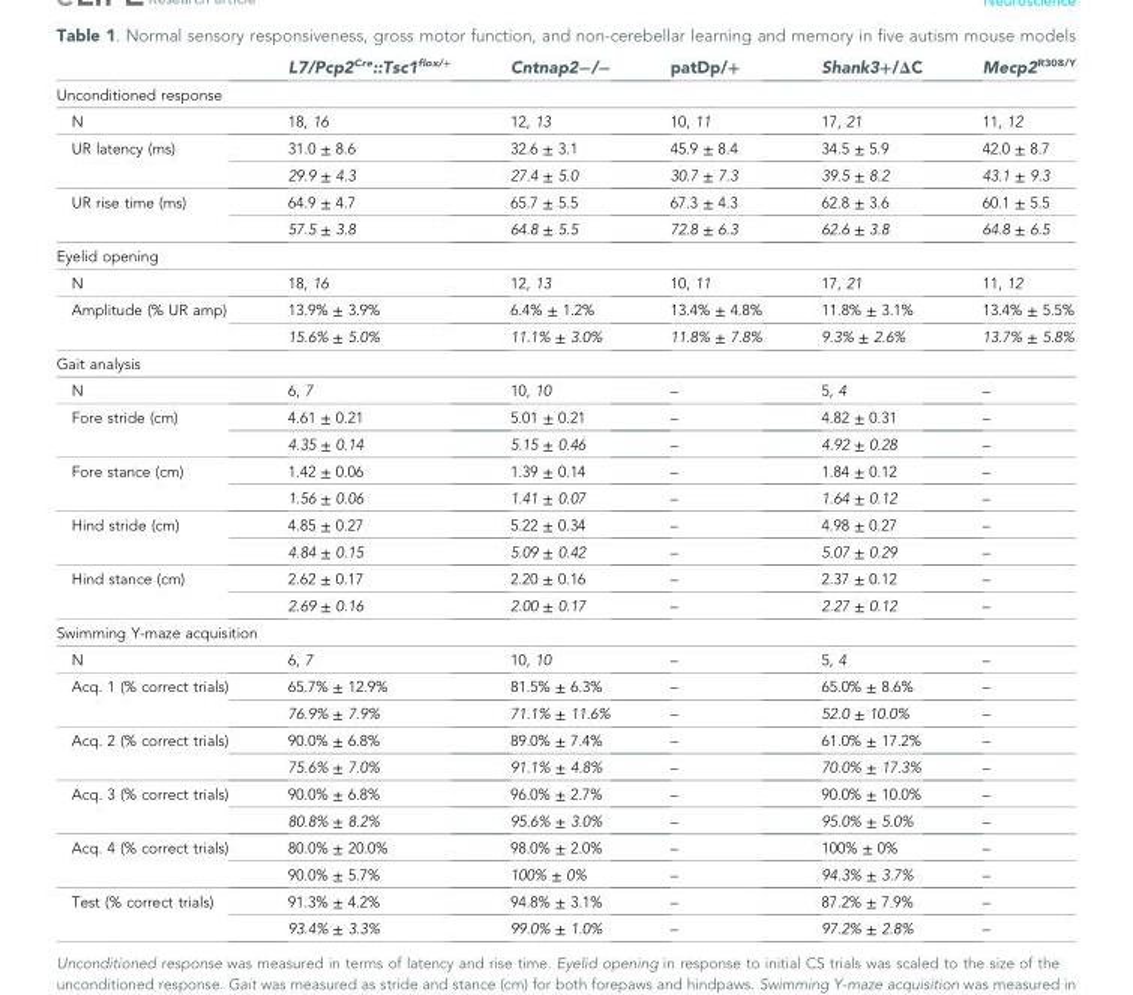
<table><thead><tr><td></td><td>L7/Pcp2<sup>Cre</sup>::Tsc1<sup>flox/+</sup></td><td>Cntnap2−/−</td><td>patDp/+</td><td>Shank3+/ΔC</td><td>Mecp2<sup>R308/Y</sup></td></tr></thead><tbody><tr><td colspan="6">Unconditioned response</td></tr><tr><td>N</td><td>18, 16</td><td>12, 13</td><td>10, 11</td><td>17, 21</td><td>11, 12</td></tr><tr><td rowspan="2">UR latency (ms)</td><td>31.0 ± 8.6</td><td>32.6 ± 3.1</td><td>45.9 ± 8.4</td><td>34.5 ± 5.9</td><td>42.0 ± 8.7</td></tr><tr><td>29.9 ± 4.3</td><td>27.4 ± 5.0</td><td>30.7 ± 7.3</td><td>39.5 ± 8.2</td><td>43.1 ± 9.3</td></tr><tr><td rowspan="2">UR rise time (ms)</td><td>64.9 ± 4.7</td><td>65.7 ± 5.5</td><td>67.3 ± 4.3</td><td>62.8 ± 3.6</td><td>60.1 ± 5.5</td></tr><tr><td>57.5 ± 3.8</td><td>64.8 ± 5.5</td><td>72.8 ± 6.3</td><td>62.6 ± 3.8</td><td>64.8 ± 6.5</td></tr><tr><td colspan="6">Eyelid opening</td></tr><tr><td>N</td><td>18, 16</td><td>12, 13</td><td>10, 11</td><td>17, 21</td><td>11, 12</td></tr><tr><td rowspan="2">Amplitude (% UR amp)</td><td>13.9% ± 3.9%</td><td>6.4% ± 1.2%</td><td>13.4% ± 4.8%</td><td>11.8% ± 3.1%</td><td>13.4% ± 5.5%</td></tr><tr><td>15.6% ± 5.0%</td><td>11.1% ± 3.0%</td><td>11.8% ± 7.8%</td><td>9.3% ± 2.6%</td><td>13.7% ± 5.8%</td></tr><tr><td colspan="6">Gait analysis</td></tr><tr><td>N</td><td>6, 7</td><td>10, 10</td><td>–</td><td>5, 4</td><td>–</td></tr><tr><td rowspan="2">Fore stride (cm)</td><td>4.61 ± 0.21</td><td>5.01 ± 0.21</td><td>–</td><td>4.82 ± 0.31</td><td>–</td></tr><tr><td>4.35 ± 0.14</td><td>5.15 ± 0.46</td><td>–</td><td>4.92 ± 0.28</td><td>–</td></tr><tr><td rowspan="2">Fore stance (cm)</td><td>1.42 ± 0.06</td><td>1.39 ± 0.14</td><td>–</td><td>1.84 ± 0.12</td><td>–</td></tr><tr><td>1.56 ± 0.06</td><td>1.41 ± 0.07</td><td>–</td><td>1.64 ± 0.12</td><td>–</td></tr><tr><td rowspan="2">Hind stride (cm)</td><td>4.85 ± 0.27</td><td>5.22 ± 0.34</td><td>–</td><td>4.98 ± 0.27</td><td>–</td></tr><tr><td>4.84 ± 0.15</td><td>5.09 ± 0.42</td><td>–</td><td>5.07 ± 0.29</td><td>–</td></tr><tr><td rowspan="2">Hind stance (cm)</td><td>2.62 ± 0.17</td><td>2.20 ± 0.16</td><td>–</td><td>2.37 ± 0.12</td><td>–</td></tr><tr><td>2.69 ± 0.16</td><td>2.00 ± 0.17</td><td>–</td><td>2.27 ± 0.12</td><td>–</td></tr><tr><td colspan="6">Swimming Y-maze acquisition</td></tr><tr><td>N</td><td>6, 7</td><td>10, 10</td><td>–</td><td>5, 4</td><td>–</td></tr><tr><td rowspan="2">Acq. 1 (% correct trials)</td><td>65.7% ± 12.9%</td><td>81.5% ± 6.3%</td><td>–</td><td>65.0% ± 8.6%</td><td>–</td></tr><tr><td>76.9% ± 7.9%</td><td>71.1% ± 11.6%</td><td>–</td><td>52.0 ± 10.0%</td><td>–</td></tr><tr><td rowspan="2">Acq. 2 (% correct trials)</td><td>90.0% ± 6.8%</td><td>89.0% ± 7.4%</td><td>–</td><td>61.0% ± 17.2%</td><td>–</td></tr><tr><td>75.6% ± 7.0%</td><td>91.1% ± 4.8%</td><td>–</td><td>70.0% ± 17.3%</td><td>–</td></tr><tr><td rowspan="2">Acq. 3 (% correct trials)</td><td>90.0% ± 6.8%</td><td>96.0% ± 2.7%</td><td>–</td><td>90.0% ± 10.0%</td><td>–</td></tr><tr><td>80.8% ± 8.2%</td><td>95.6% ± 3.0%</td><td>–</td><td>95.0% ± 5.0%</td><td>–</td></tr><tr><td rowspan="2">Acq. 4 (% correct trials)</td><td>80.0% ± 20.0%</td><td>98.0% ± 2.0%</td><td>–</td><td>100% ± 0%</td><td>–</td></tr><tr><td>90.0% ± 5.7%</td><td>100% ± 0%</td><td>–</td><td>94.3% ± 3.7%</td><td>–</td></tr><tr><td rowspan="2">Test (% correct trials)</td><td>91.3% ± 4.2%</td><td>94.8% ± 3.1%</td><td>–</td><td>87.2% ± 7.9%</td><td>–</td></tr><tr><td>93.4% ± 3.3%</td><td>99.0% ± 1.0%</td><td>–</td><td>97.2% ± 2.8%</td><td>–</td></tr></tbody></table>